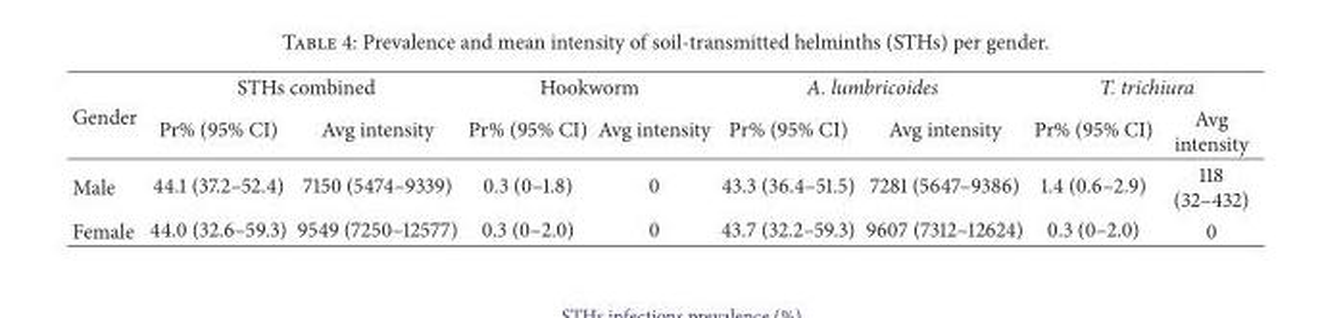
<table><thead><tr><td rowspan="2">Gender</td><td colspan="2">STHs combined</td><td colspan="2">Hookworm</td><td colspan="2">A. lumbricoides</td><td colspan="2">T. trichiura</td></tr><tr><td>Pr% (95% CI)</td><td>Avg intensity</td><td>Pr% (95% CI)</td><td>Avg intensity</td><td>Pr% (95% CI)</td><td>Avg intensity</td><td>Pr% (95% CI)</td><td>Avg intensity</td></tr></thead><tbody><tr><td>Male</td><td>44.1 (37.2–52.4)</td><td>7150 (5474–9339)</td><td>0.3 (0–1.8)</td><td>0</td><td>43.3 (36.4–51.5)</td><td>7281 (5647–9386)</td><td>1.4 (0.6–2.9)</td><td>118 (32–432)</td></tr><tr><td>Female</td><td>44.0 (32.6–59.3)</td><td>9549 (7250–12577)</td><td>0.3 (0–2.0)</td><td>0</td><td>43.7 (32.2–59.3)</td><td>9607 (7312–12624)</td><td>0.3 (0–2.0)</td><td>0</td></tr></tbody></table>